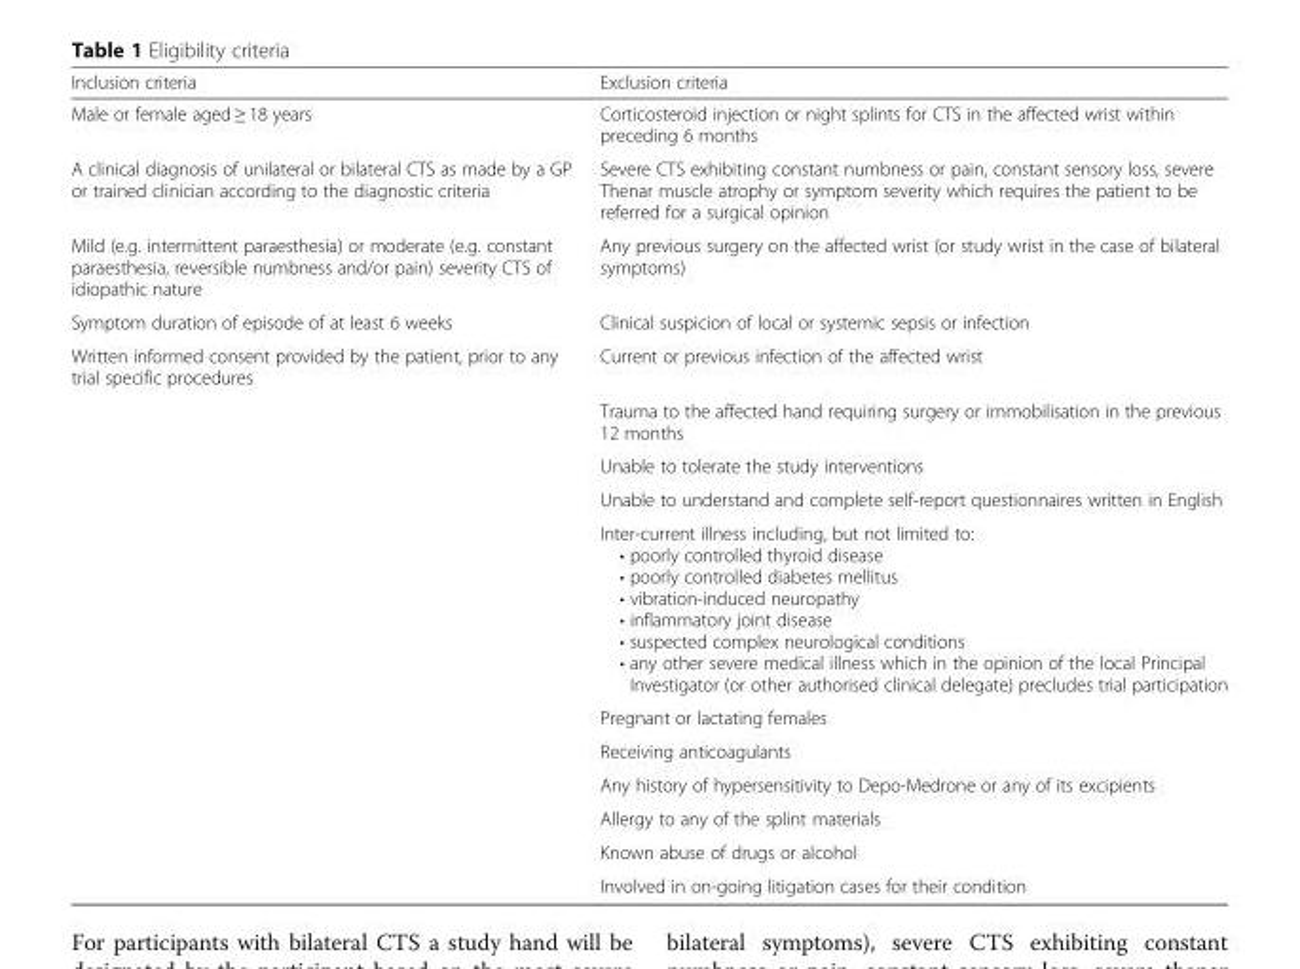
<table><thead><tr><td>Inclusion criteria</td><td>Exclusion criteria</td></tr></thead><tbody><tr><td>Male or female aged ≥ 18 years</td><td>Corticosteroid injection or night splints for CTS in the affected wrist within preceding 6 months</td></tr><tr><td>A clinical diagnosis of unilateral or bilateral CTS as made by a GP or trained clinician according to the diagnostic criteria</td><td>Severe CTS exhibiting constant numbness or pain, constant sensory loss, severe Thenar muscle atrophy or symptom severity which requires the patient to be referred for a surgical opinion</td></tr><tr><td>Mild (e.g. intermittent paraesthesia) or moderate (e.g. constant paraesthesia, reversible numbness and/or pain) severity CTS of idiopathic nature</td><td>Any previous surgery on the affected wrist (or study wrist in the case of bilateral symptoms)</td></tr><tr><td>Symptom duration of episode of at least 6 weeks</td><td>Clinical suspicion of local or systemic sepsis or infection</td></tr><tr><td rowspan="11">Written informed consent provided by the patient, prior to any trial specific procedures</td><td>Current or previous infection of the affected wrist</td></tr><tr><td>Trauma to the affected hand requiring surgery or immobilisation in the previous 12 months</td></tr><tr><td>Unable to tolerate the study interventions</td></tr><tr><td>Unable to understand and complete self-report questionnaires written in English</td></tr><tr><td>Inter-current illness including, but not limited to: • poorly controlled thyroid disease • poorly controlled diabetes mellitus • vibration-induced neuropathy • inflammatory joint disease • suspected complex neurological conditions • any other severe medical illness which in the opinion of the local Principal Investigator (or other authorised clinical delegate) precludes trial participation</td></tr><tr><td>Pregnant or lactating females</td></tr><tr><td>Receiving anticoagulants</td></tr><tr><td>Any history of hypersensitivity to Depo-Medrone or any of its excipients</td></tr><tr><td>Allergy to any of the splint materials</td></tr><tr><td>Known abuse of drugs or alcohol</td></tr><tr><td>Involved in on-going litigation cases for their condition</td></tr></tbody></table>